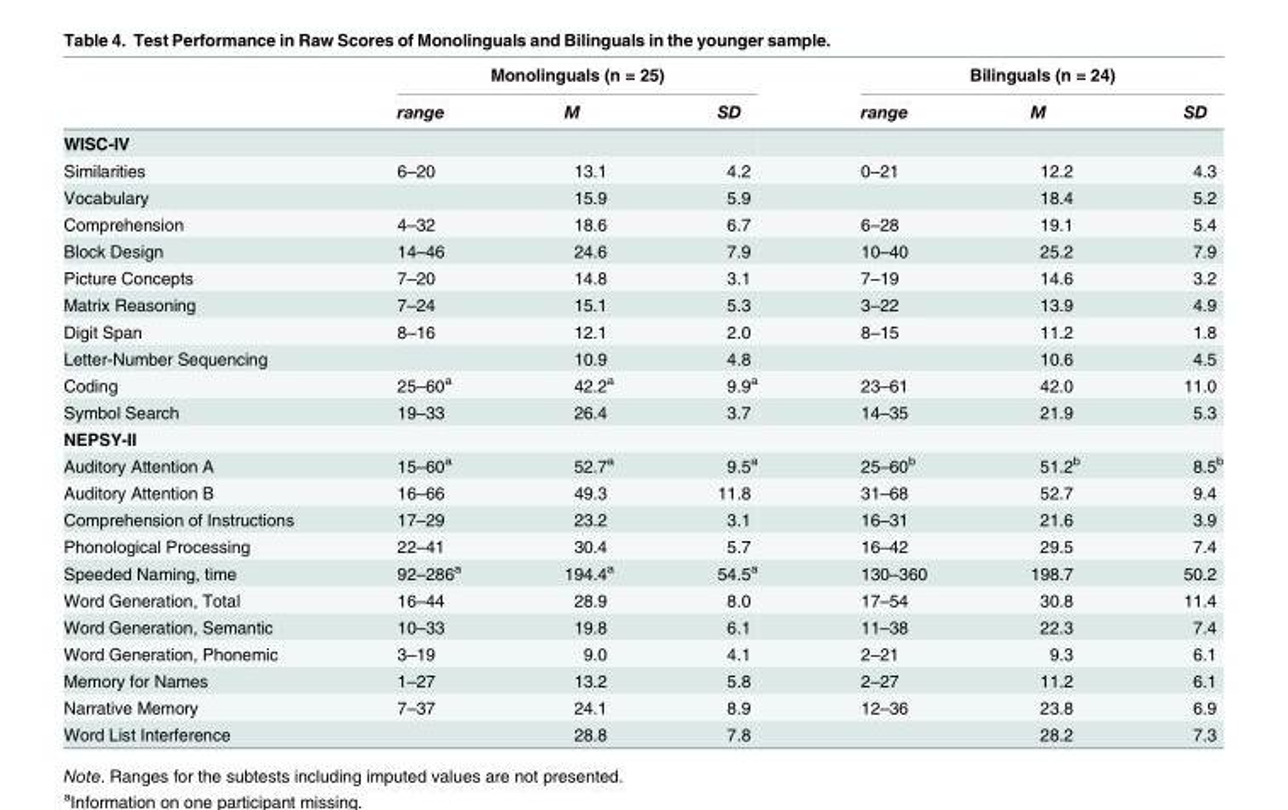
<table><thead><tr><td rowspan="2"></td><td colspan="3">Monolinguals (n = 25)</td><td colspan="3">Bilinguals (n = 24)</td></tr><tr><td>range</td><td>M</td><td>SD</td><td>range</td><td>M</td><td>SD</td></tr></thead><tbody><tr><td colspan="7">WISC-IV</td></tr><tr><td>Similarities</td><td>6–20</td><td>13.1</td><td>4.2</td><td>0–21</td><td>12.2</td><td>4.3</td></tr><tr><td>Vocabulary</td><td></td><td>15.9</td><td>5.9</td><td></td><td>18.4</td><td>5.2</td></tr><tr><td>Comprehension</td><td>4–32</td><td>18.6</td><td>6.7</td><td>6–28</td><td>19.1</td><td>5.4</td></tr><tr><td>Block Design</td><td>14–46</td><td>24.6</td><td>7.9</td><td>10–40</td><td>25.2</td><td>7.9</td></tr><tr><td>Picture Concepts</td><td>7–20</td><td>14.8</td><td>3.1</td><td>7–19</td><td>14.6</td><td>3.2</td></tr><tr><td>Matrix Reasoning</td><td>7–24</td><td>15.1</td><td>5.3</td><td>3–22</td><td>13.9</td><td>4.9</td></tr><tr><td>Digit Span</td><td>8–16</td><td>12.1</td><td>2.0</td><td>8–15</td><td>11.2</td><td>1.8</td></tr><tr><td>Letter-Number Sequencing</td><td></td><td>10.9</td><td>4.8</td><td></td><td>10.6</td><td>4.5</td></tr><tr><td>Coding</td><td>25–60<sup>a</sup></td><td>42.2<sup>a</sup></td><td>9.9<sup>a</sup></td><td>23–61</td><td>42.0</td><td>11.0</td></tr><tr><td>Symbol Search</td><td>19–33</td><td>26.4</td><td>3.7</td><td>14–35</td><td>21.9</td><td>5.3</td></tr><tr><td colspan="7">NEPSY-II</td></tr><tr><td>Auditory Attention A</td><td>15–60<sup>a</sup></td><td>52.7<sup>a</sup></td><td>9.5<sup>a</sup></td><td>25–60<sup>b</sup></td><td>51.2<sup>b</sup></td><td>8.5<sup>b</sup></td></tr><tr><td>Auditory Attention B</td><td>16–66</td><td>49.3</td><td>11.8</td><td>31–68</td><td>52.7</td><td>9.4</td></tr><tr><td>Comprehension of Instructions</td><td>17–29</td><td>23.2</td><td>3.1</td><td>16–31</td><td>21.6</td><td>3.9</td></tr><tr><td>Phonological Processing</td><td>22–41</td><td>30.4</td><td>5.7</td><td>16–42</td><td>29.5</td><td>7.4</td></tr><tr><td>Speeded Naming, time</td><td>92–286<sup>a</sup></td><td>194.4<sup>a</sup></td><td>54.5<sup>a</sup></td><td>130–360</td><td>198.7</td><td>50.2</td></tr><tr><td>Word Generation, Total</td><td>16–44</td><td>28.9</td><td>8.0</td><td>17–54</td><td>30.8</td><td>11.4</td></tr><tr><td>Word Generation, Semantic</td><td>10–33</td><td>19.8</td><td>6.1</td><td>11–38</td><td>22.3</td><td>7.4</td></tr><tr><td>Word Generation, Phonemic</td><td>3–19</td><td>9.0</td><td>4.1</td><td>2–21</td><td>9.3</td><td>6.1</td></tr><tr><td>Memory for Names</td><td>1–27</td><td>13.2</td><td>5.8</td><td>2–27</td><td>11.2</td><td>6.1</td></tr><tr><td>Narrative Memory</td><td>7–37</td><td>24.1</td><td>8.9</td><td>12–36</td><td>23.8</td><td>6.9</td></tr><tr><td>Word List Interference</td><td></td><td>28.8</td><td>7.8</td><td></td><td>28.2</td><td>7.3</td></tr></tbody></table>